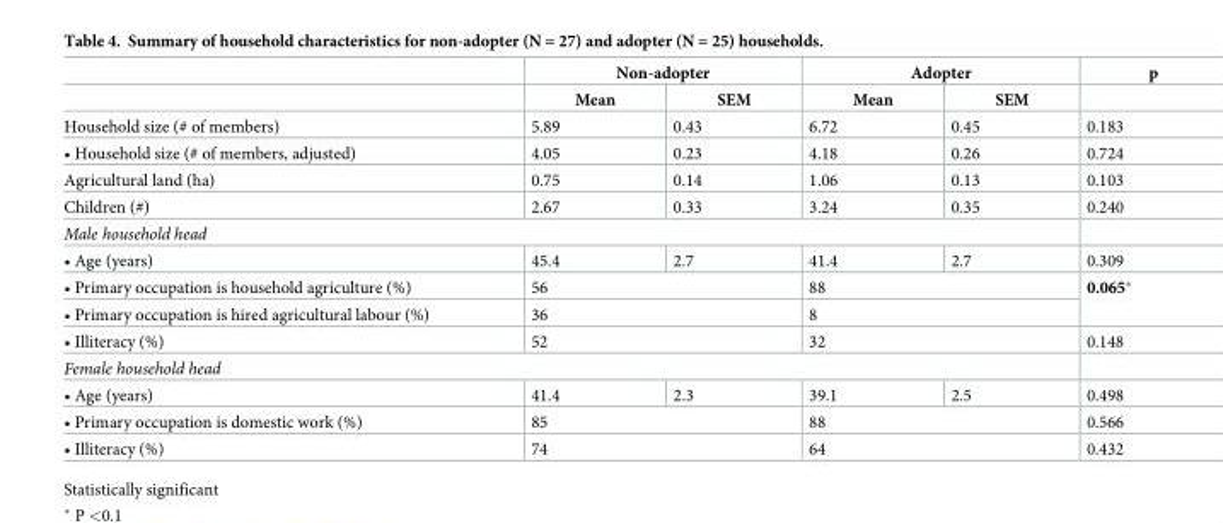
<table><thead><tr><td rowspan="2"></td><td colspan="2">Non-adopter</td><td colspan="2">Adopter</td><td rowspan="2">p</td></tr><tr><td>Mean</td><td>SEM</td><td>Mean</td><td>SEM</td></tr></thead><tbody><tr><td>Household size (# of members)</td><td>5.89</td><td>0.43</td><td>6.72</td><td>0.45</td><td>0.183</td></tr><tr><td>• Household size (# of members, adjusted)</td><td>4.05</td><td>0.23</td><td>4.18</td><td>0.26</td><td>0.724</td></tr><tr><td>Agricultural land (ha)</td><td>0.75</td><td>0.14</td><td>1.06</td><td>0.13</td><td>0.103</td></tr><tr><td>Children (#)</td><td>2.67</td><td>0.33</td><td>3.24</td><td>0.35</td><td>0.240</td></tr><tr><td colspan="6">Male household head</td></tr><tr><td>• Age (years)</td><td>45.4</td><td>2.7</td><td>41.4</td><td>2.7</td><td>0.309</td></tr><tr><td>• Primary occupation is household agriculture (%)</td><td colspan="2">56</td><td colspan="2">88</td><td rowspan="2">0.065*</td></tr><tr><td>• Primary occupation is hired agricultural labour (%)</td><td colspan="2">36</td><td colspan="2">8</td></tr><tr><td>• Illiteracy (%)</td><td colspan="2">52</td><td colspan="2">32</td><td>0.148</td></tr><tr><td colspan="6">Female household head</td></tr><tr><td>• Age (years)</td><td>41.4</td><td>2.3</td><td>39.1</td><td>2.5</td><td>0.498</td></tr><tr><td>• Primary occupation is domestic work (%)</td><td colspan="2">85</td><td colspan="2">88</td><td>0.566</td></tr><tr><td>• Illiteracy (%)</td><td colspan="2">74</td><td colspan="2">64</td><td>0.432</td></tr></tbody></table>